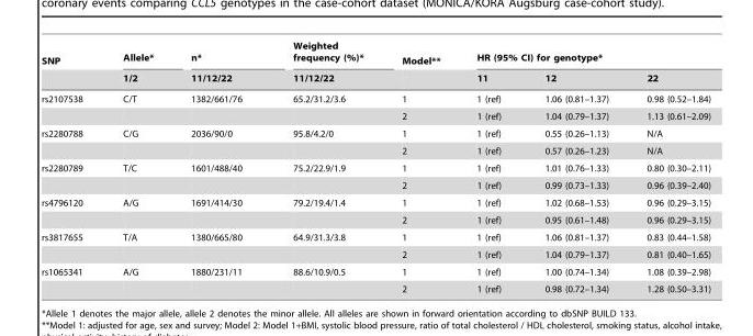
<table><thead><tr><td rowspan="2">SNP</td><td rowspan="2">Allele* 1/2</td><td rowspan="2">n* 11/12/22</td><td rowspan="2">Weighted frequency (%)* 11/12/22</td><td rowspan="2">Model**</td><td colspan="3">HR (95% CI) for genotype*</td></tr><tr><td>11</td><td>12</td><td>22</td></tr></thead><tbody><tr><td rowspan="2">rs2107538</td><td>C/T</td><td>1382/661/76</td><td>65.2/31.2/3.6</td><td>1</td><td>1 (ref)</td><td>1.06 (0.81–1.37)</td><td>0.98 (0.52–1.84)</td></tr><tr><td></td><td></td><td></td><td>2</td><td>1 (ref)</td><td>1.04 (0.79–1.37)</td><td>1.13 (0.61–2.09)</td></tr><tr><td rowspan="2">rs2280788</td><td>C/G</td><td>2036/90/0</td><td>95.8/4.2/0</td><td>1</td><td>1 (ref)</td><td>0.55 (0.26–1.13)</td><td>N/A</td></tr><tr><td></td><td></td><td></td><td>2</td><td>1 (ref)</td><td>0.57 (0.26–1.23)</td><td>N/A</td></tr><tr><td rowspan="2">rs2280789</td><td>T/C</td><td>1601/488/40</td><td>75.2/22.9/1.9</td><td>1</td><td>1 (ref)</td><td>1.01 (0.76–1.33)</td><td>0.80 (0.30–2.11)</td></tr><tr><td></td><td></td><td></td><td>2</td><td>1 (ref)</td><td>0.99 (0.73–1.33)</td><td>0.96 (0.39–2.40)</td></tr><tr><td rowspan="2">rs4796120</td><td>A/G</td><td>1691/414/30</td><td>79.2/19.4/1.4</td><td>1</td><td>1 (ref)</td><td>1.02 (0.68–1.53)</td><td>0.96 (0.29–3.15)</td></tr><tr><td></td><td></td><td></td><td>2</td><td>1 (ref)</td><td>0.95 (0.61–1.48)</td><td>0.96 (0.29–3.15)</td></tr><tr><td rowspan="2">rs3817655</td><td>T/A</td><td>1380/665/80</td><td>64.9/31.3/3.8</td><td>1</td><td>1 (ref)</td><td>1.06 (0.81–1.37)</td><td>0.83 (0.44–1.58)</td></tr><tr><td></td><td></td><td></td><td>2</td><td>1 (ref)</td><td>1.04 (0.79–1.37)</td><td>0.81 (0.40–1.65)</td></tr><tr><td rowspan="2">rs1065341</td><td>A/G</td><td>1880/231/11</td><td>88.6/10.9/0.5</td><td>1</td><td>1 (ref)</td><td>1.00 (0.74–1.34)</td><td>1.08 (0.39–2.98)</td></tr><tr><td></td><td></td><td></td><td>2</td><td>1 (ref)</td><td>0.98 (0.72–1.34)</td><td>1.28 (0.50–3.31)</td></tr></tbody></table>